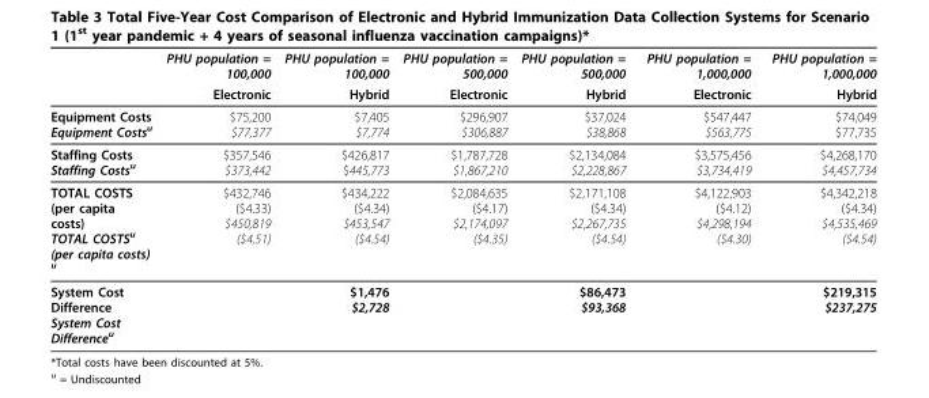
<table><thead><tr><td rowspan="2"></td><td rowspan="2">PHU population = 100,000 Electronic</td><td rowspan="2">PHU population = 100,000 Hybrid</td><td rowspan="2">PHU population = 500,000 Electronic</td><td rowspan="2">PHU population = 500,000 Hybrid</td><td rowspan="2">PHU population = 1,000,000 Electronic</td><td rowspan="2">PHU population = 1,000,000 Hybrid</td></tr><tr></tr></thead><tbody><tr><td>Equipment Costs Equipment Costs<sup>u</sup></td><td>$75,200 $77,377</td><td>$7,405 $7,774</td><td>$296,907 $306,887</td><td>$37,024 $38,868</td><td>$547,447 $563,775</td><td>$74,049 $77,735</td></tr><tr><td>Staffing Costs Staffing Costs<sup>u</sup></td><td>$357,546 $373,442</td><td>$426,817 $445,773</td><td>$1,787,728 $1,867,210</td><td>$2,134,084 $2,228,867</td><td>$3,575,456 $3,734,419</td><td>$4,268,170 $4,457,734</td></tr><tr><td>TOTAL COSTS (per capita costs) TOTAL COSTS<sup>u</sup> (per capita costs) <sup>u</sup></td><td>$432,746 ($4.33) $450,819 ($4.51)</td><td>$434,222 ($4.34) $453,547 ($4.54)</td><td>$2,084,635 ($4.17) $2,174,097 ($4.35)</td><td>$2,171,108 ($4.34) $2,267,735 ($4.54)</td><td>$4,122,903 ($4.12) $4,298,194 ($4.30)</td><td>$4,342,218 ($4.34) $4,535,469 ($4.54)</td></tr><tr><td>System Cost Difference System Cost Difference<sup>u</sup></td><td></td><td>$1,476 $2,728</td><td></td><td>$86,473 $93,368</td><td></td><td>$219,315 $237,275</td></tr></tbody></table>